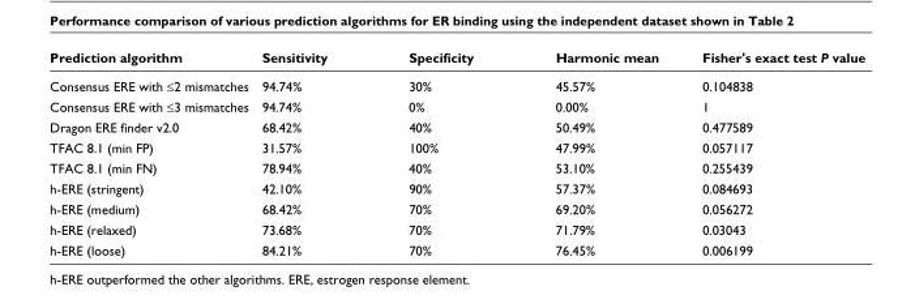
<table><thead><tr><td>Prediction algorithm</td><td>Sensitivity</td><td>Specificity</td><td>Harmonic mean</td><td>Fisher&#x27;s exact test P value</td></tr></thead><tbody><tr><td>Consensus ERE with ≤2 mismatches</td><td>94.74%</td><td>30%</td><td>45.57%</td><td>0.104838</td></tr><tr><td>Consensus ERE with ≤3 mismatches</td><td>94.74%</td><td>0%</td><td>0.00%</td><td>1</td></tr><tr><td>Dragon ERE finder v2.0</td><td>68.42%</td><td>40%</td><td>50.49%</td><td>0.477589</td></tr><tr><td>TFAC 8.1 (min FP)</td><td>31.57%</td><td>100%</td><td>47.99%</td><td>0.057117</td></tr><tr><td>TFAC 8.1 (min FN)</td><td>78.94%</td><td>40%</td><td>53.10%</td><td>0.255439</td></tr><tr><td>h-ERE (stringent)</td><td>42.10%</td><td>90%</td><td>57.37%</td><td>0.084693</td></tr><tr><td>h-ERE (medium)</td><td>68.42%</td><td>70%</td><td>69.20%</td><td>0.056272</td></tr><tr><td>h-ERE (relaxed)</td><td>73.68%</td><td>70%</td><td>71.79%</td><td>0.03043</td></tr><tr><td>h-ERE (loose)</td><td>84.21%</td><td>70%</td><td>76.45%</td><td>0.006199</td></tr></tbody></table>